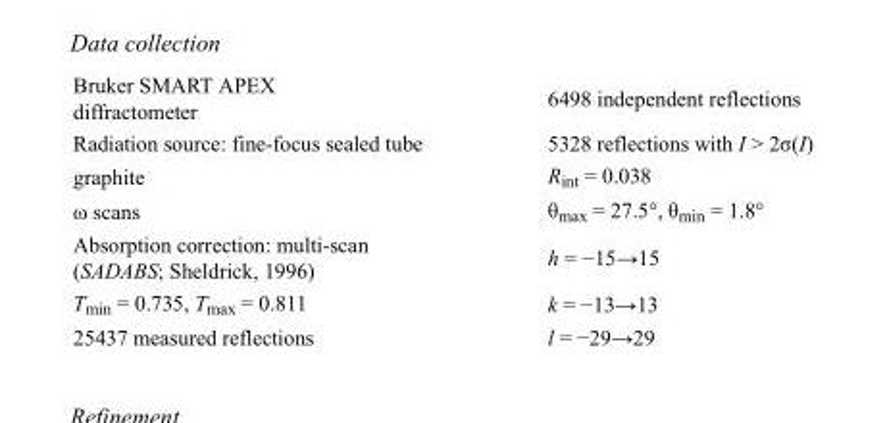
<table><tbody><tr><td>Bruker SMART APEX diffractometer</td><td>6498 independent reflections</td></tr><tr><td>Radiation source: fine-focus sealed tube</td><td>5328 reflections with I &gt; 2σ(I)</td></tr><tr><td>graphite</td><td>R<sub>int</sub> = 0.038</td></tr><tr><td>ω scans</td><td>θ<sub>max</sub> = 27.5°, θ<sub>min</sub> = 1.8°</td></tr><tr><td>Absorption correction: multi-scan (SADABS; Sheldrick, 1996)</td><td>h = −15→15</td></tr><tr><td>T<sub>min</sub> = 0.735, T<sub>max</sub> = 0.811</td><td>k = −13→13</td></tr><tr><td>25437 measured reflections</td><td>l = −29→29</td></tr></tbody></table>